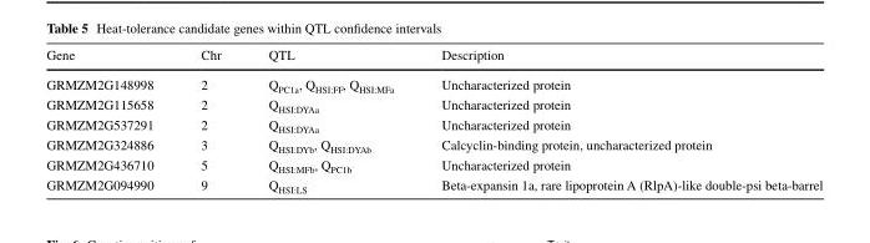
<table><thead><tr><td>Gene</td><td>Chr</td><td>QTL</td><td>Description</td></tr></thead><tbody><tr><td>GRMZM2G148998</td><td>2</td><td>Q<sub>PC1a</sub>, Q<sub>HSI:FF</sub>, Q<sub>HSI:MFa</sub></td><td>Uncharacterized protein</td></tr><tr><td>GRMZM2G115658</td><td>2</td><td>Q<sub>HSI:DYAa</sub></td><td>Uncharacterized protein</td></tr><tr><td>GRMZM2G537291</td><td>2</td><td>Q<sub>HSI:DYAa</sub></td><td>Uncharacterized protein</td></tr><tr><td>GRMZM2G324886</td><td>3</td><td>Q<sub>HSI:DYb</sub>, Q<sub>HSI:DYAb</sub></td><td>Calcyclin-binding protein, uncharacterized protein</td></tr><tr><td>GRMZM2G436710</td><td>5</td><td>Q<sub>HSI:MFb</sub>, Q<sub>PC1b</sub></td><td>Uncharacterized protein</td></tr><tr><td>GRMZM2G094990</td><td>9</td><td>Q<sub>HSI:LS</sub></td><td>Beta-expansin 1a, rare lipoprotein A (RlpA)-like double-psi beta-barrel</td></tr></tbody></table>